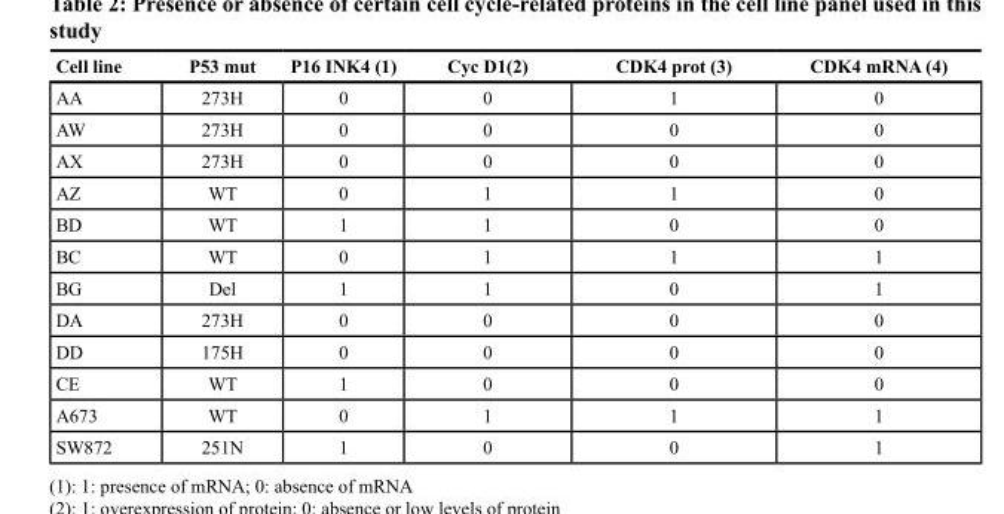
<table><thead><tr><td>Cell line</td><td>P53 mut</td><td>P16 INK4 (1)</td><td>Cyc D1(2)</td><td>CDK4 prot (3)</td><td>CDK4 mRNA (4)</td></tr></thead><tbody><tr><td>AA</td><td>273H</td><td>0</td><td>0</td><td>1</td><td>0</td></tr><tr><td>AW</td><td>273H</td><td>0</td><td>0</td><td>0</td><td>0</td></tr><tr><td>AX</td><td>273H</td><td>0</td><td>0</td><td>0</td><td>0</td></tr><tr><td>AZ</td><td>WT</td><td>0</td><td>1</td><td>1</td><td>0</td></tr><tr><td>BD</td><td>WT</td><td>1</td><td>1</td><td>0</td><td>0</td></tr><tr><td>BC</td><td>WT</td><td>0</td><td>1</td><td>1</td><td>1</td></tr><tr><td>BG</td><td>Del</td><td>1</td><td>1</td><td>0</td><td>1</td></tr><tr><td>DA</td><td>273H</td><td>0</td><td>0</td><td>0</td><td>0</td></tr><tr><td>DD</td><td>175H</td><td>0</td><td>0</td><td>0</td><td>0</td></tr><tr><td>CE</td><td>WT</td><td>1</td><td>0</td><td>0</td><td>0</td></tr><tr><td>A673</td><td>WT</td><td>0</td><td>1</td><td>1</td><td>1</td></tr><tr><td>SW872</td><td>251N</td><td>1</td><td>0</td><td>0</td><td>1</td></tr></tbody></table>